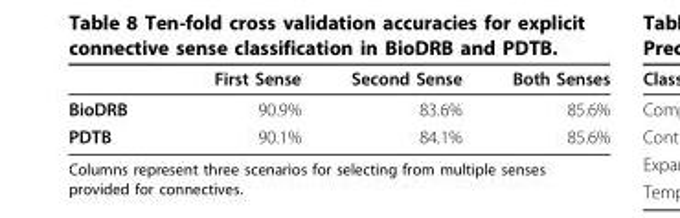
<table><thead><tr><td></td><td>First Sense</td><td>Second Sense</td><td>Both Senses</td></tr></thead><tbody><tr><td>BioDRB</td><td>90.9%</td><td>83.6%</td><td>85.6%</td></tr><tr><td>PDTB</td><td>90.1%</td><td>84.1%</td><td>85.6%</td></tr></tbody></table>